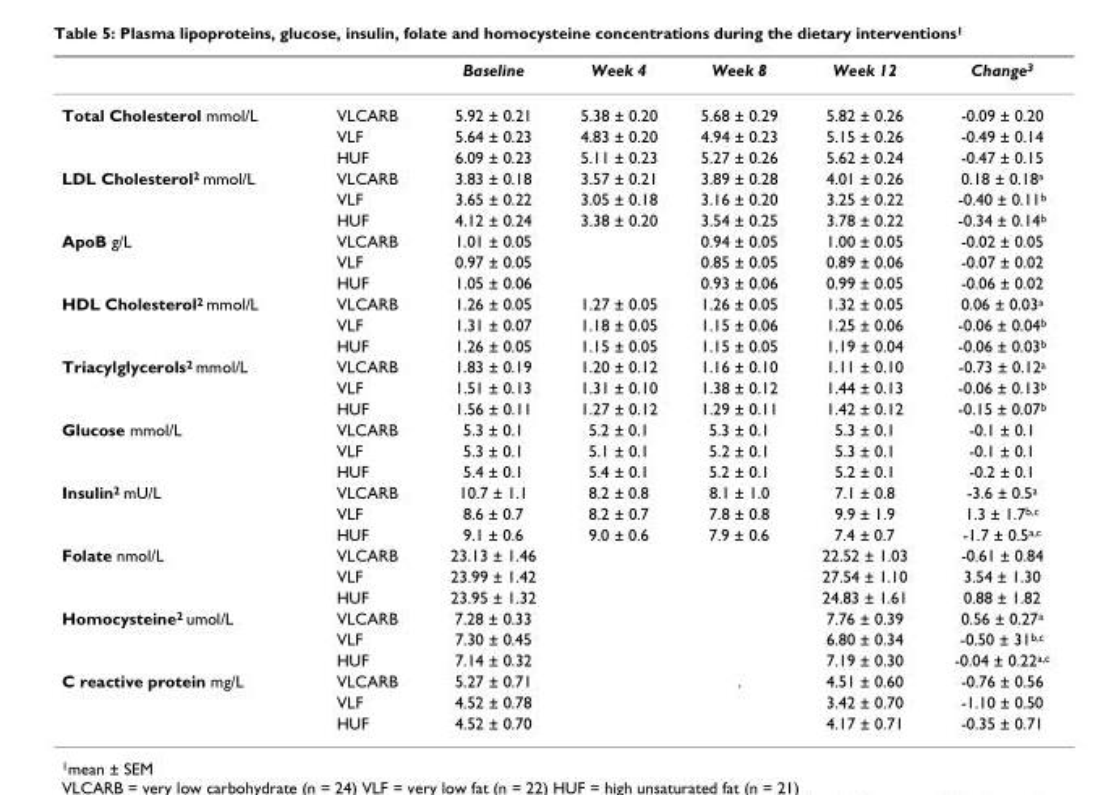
<table><thead><tr><td></td><td></td><td>Baseline</td><td>Week 4</td><td>Week 8</td><td>Week 12</td><td>Change<sup>3</sup></td></tr></thead><tbody><tr><td rowspan="3">Total Cholesterol mmol/L</td><td>VLCARB</td><td>5.92 ± 0.21</td><td>5.38 ± 0.20</td><td>5.68 ± 0.29</td><td>5.82 ± 0.26</td><td>-0.09 ± 0.20</td></tr><tr><td>VLF</td><td>5.64 ± 0.23</td><td>4.83 ± 0.20</td><td>4.94 ± 0.23</td><td>5.15 ± 0.26</td><td>-0.49 ± 0.14</td></tr><tr><td>HUF</td><td>6.09 ± 0.23</td><td>5.11 ± 0.23</td><td>5.27 ± 0.26</td><td>5.62 ± 0.24</td><td>-0.47 ± 0.15</td></tr><tr><td rowspan="3">LDL Cholesterol<sup>2</sup> mmol/L</td><td>VLCARB</td><td>3.83 ± 0.18</td><td>3.57 ± 0.21</td><td>3.89 ± 0.28</td><td>4.01 ± 0.26</td><td>0.18 ± 0.18<sup>a</sup></td></tr><tr><td>VLF</td><td>3.65 ± 0.22</td><td>3.05 ± 0.18</td><td>3.16 ± 0.20</td><td>3.25 ± 0.22</td><td>-0.40 ± 0.11<sup>b</sup></td></tr><tr><td>HUF</td><td>4.12 ± 0.24</td><td>3.38 ± 0.20</td><td>3.54 ± 0.25</td><td>3.78 ± 0.22</td><td>-0.34 ± 0.14<sup>b</sup></td></tr><tr><td rowspan="3">ApoB g/L</td><td>VLCARB</td><td>1.01 ± 0.05</td><td></td><td>0.94 ± 0.05</td><td>1.00 ± 0.05</td><td>-0.02 ± 0.05</td></tr><tr><td>VLF</td><td>0.97 ± 0.05</td><td></td><td>0.85 ± 0.05</td><td>0.89 ± 0.06</td><td>-0.07 ± 0.02</td></tr><tr><td>HUF</td><td>1.05 ± 0.06</td><td></td><td>0.93 ± 0.06</td><td>0.99 ± 0.05</td><td>-0.06 ± 0.02</td></tr><tr><td rowspan="3">HDL Cholesterol<sup>2</sup> mmol/L</td><td>VLCARB</td><td>1.26 ± 0.05</td><td>1.27 ± 0.05</td><td>1.26 ± 0.05</td><td>1.32 ± 0.05</td><td>0.06 ± 0.03<sup>a</sup></td></tr><tr><td>VLF</td><td>1.31 ± 0.07</td><td>1.18 ± 0.05</td><td>1.15 ± 0.06</td><td>1.25 ± 0.06</td><td>-0.06 ± 0.04<sup>b</sup></td></tr><tr><td>HUF</td><td>1.26 ± 0.05</td><td>1.15 ± 0.05</td><td>1.15 ± 0.05</td><td>1.19 ± 0.04</td><td>-0.06 ± 0.03<sup>b</sup></td></tr><tr><td rowspan="3">Triacylglycerols<sup>2</sup> mmol/L</td><td>VLCARB</td><td>1.83 ± 0.19</td><td>1.20 ± 0.12</td><td>1.16 ± 0.10</td><td>1.11 ± 0.10</td><td>-0.73 ± 0.12<sup>a</sup></td></tr><tr><td>VLF</td><td>1.51 ± 0.13</td><td>1.31 ± 0.10</td><td>1.38 ± 0.12</td><td>1.44 ± 0.13</td><td>-0.06 ± 0.13<sup>b</sup></td></tr><tr><td>HUF</td><td>1.56 ± 0.11</td><td>1.27 ± 0.12</td><td>1.29 ± 0.11</td><td>1.42 ± 0.12</td><td>-0.15 ± 0.07<sup>b</sup></td></tr><tr><td rowspan="3">Glucose mmol/L</td><td>VLCARB</td><td>5.3 ± 0.1</td><td>5.2 ± 0.1</td><td>5.3 ± 0.1</td><td>5.3 ± 0.1</td><td>-0.1 ± 0.1</td></tr><tr><td>VLF</td><td>5.3 ± 0.1</td><td>5.1 ± 0.1</td><td>5.2 ± 0.1</td><td>5.3 ± 0.1</td><td>-0.1 ± 0.1</td></tr><tr><td>HUF</td><td>5.4 ± 0.1</td><td>5.4 ± 0.1</td><td>5.2 ± 0.1</td><td>5.2 ± 0.1</td><td>-0.2 ± 0.1</td></tr><tr><td rowspan="3">Insulin<sup>2</sup> mU/L</td><td>VLCARB</td><td>10.7 ± 1.1</td><td>8.2 ± 0.8</td><td>8.1 ± 1.0</td><td>7.1 ± 0.8</td><td>-3.6 ± 0.5<sup>a</sup></td></tr><tr><td>VLF</td><td>8.6 ± 0.7</td><td>8.2 ± 0.7</td><td>7.8 ± 0.8</td><td>9.9 ± 1.9</td><td>1.3 ± 1.7<sup>b,c</sup></td></tr><tr><td>HUF</td><td>9.1 ± 0.6</td><td>9.0 ± 0.6</td><td>7.9 ± 0.6</td><td>7.4 ± 0.7</td><td>-1.7 ± 0.5<sup>a,c</sup></td></tr><tr><td rowspan="3">Folate nmol/L</td><td>VLCARB</td><td>23.13 ± 1.46</td><td></td><td></td><td>22.52 ± 1.03</td><td>-0.61 ± 0.84</td></tr><tr><td>VLF</td><td>23.99 ± 1.42</td><td></td><td></td><td>27.54 ± 1.10</td><td>3.54 ± 1.30</td></tr><tr><td>HUF</td><td>23.95 ± 1.32</td><td></td><td></td><td>24.83 ± 1.61</td><td>0.88 ± 1.82</td></tr><tr><td rowspan="3">Homocysteine<sup>2</sup> umol/L</td><td>VLCARB</td><td>7.28 ± 0.33</td><td></td><td></td><td>7.76 ± 0.39</td><td>0.56 ± 0.27<sup>a</sup></td></tr><tr><td>VLF</td><td>7.30 ± 0.45</td><td></td><td></td><td>6.80 ± 0.34</td><td>-0.50 ± 31<sup>b,c</sup></td></tr><tr><td>HUF</td><td>7.14 ± 0.32</td><td></td><td></td><td>7.19 ± 0.30</td><td>-0.04 ± 0.22<sup>a,c</sup></td></tr><tr><td rowspan="3">C reactive protein mg/L</td><td>VLCARB</td><td>5.27 ± 0.71</td><td></td><td>.</td><td>4.51 ± 0.60</td><td>-0.76 ± 0.56</td></tr><tr><td>VLF</td><td>4.52 ± 0.78</td><td></td><td></td><td>3.42 ± 0.70</td><td>-1.10 ± 0.50</td></tr><tr><td>HUF</td><td>4.52 ± 0.70</td><td></td><td></td><td>4.17 ± 0.71</td><td>-0.35 ± 0.71</td></tr></tbody></table>